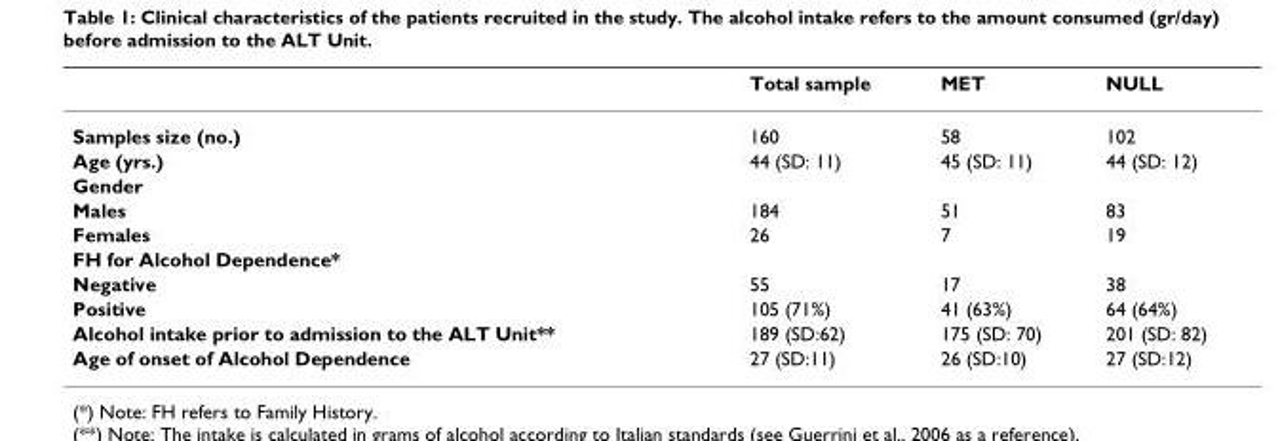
<table><thead><tr><td></td><td>Total sample</td><td>MET</td><td>NULL</td></tr></thead><tbody><tr><td>Samples size (no.)</td><td>160</td><td>58</td><td>102</td></tr><tr><td>Age (yrs.)</td><td>44 (SD: 11)</td><td>45 (SD: 11)</td><td>44 (SD: 12)</td></tr><tr><td colspan="4">Gender</td></tr><tr><td>Males</td><td>184</td><td>51</td><td>83</td></tr><tr><td>Females</td><td>26</td><td>7</td><td>19</td></tr><tr><td colspan="4">FH for Alcohol Dependence*</td></tr><tr><td>Negative</td><td>55</td><td>17</td><td>38</td></tr><tr><td>Positive</td><td>105 (71%)</td><td>41 (63%)</td><td>64 (64%)</td></tr><tr><td>Alcohol intake prior to admission to the ALT Unit**</td><td>189 (SD:62)</td><td>175 (SD: 70)</td><td>201 (SD: 82)</td></tr><tr><td>Age of onset of Alcohol Dependence</td><td>27 (SD:11)</td><td>26 (SD:10)</td><td>27 (SD:12)</td></tr></tbody></table>